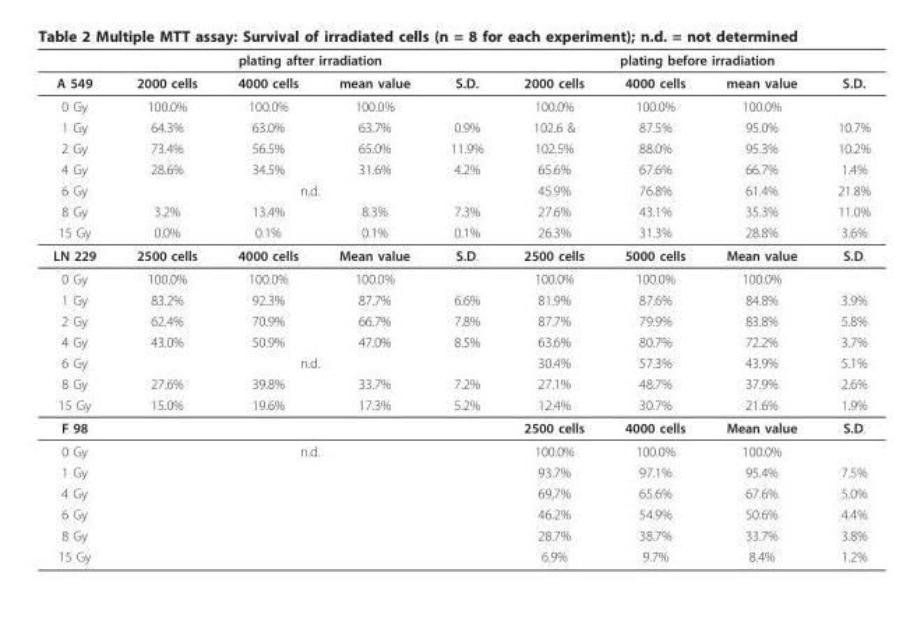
<table><thead><tr><td rowspan="2">A 549</td><td colspan="4">plating after irradiation</td><td colspan="4">plating before irradiation</td></tr><tr><td>2000 cells</td><td>4000 cells</td><td>mean value</td><td>S.D.</td><td>2000 cells</td><td>4000 cells</td><td>mean value</td><td>S.D.</td></tr></thead><tbody><tr><td>0 Gy</td><td>100.0%</td><td>100.0%</td><td>100.0%</td><td></td><td>100.0%</td><td>100.0%</td><td>100.0%</td><td></td></tr><tr><td>1 Gy</td><td>64.3%</td><td>63.0%</td><td>63.7%</td><td>0.9%</td><td>102.6 &amp;</td><td>87.5%</td><td>95.0%</td><td>10.7%</td></tr><tr><td>2 Gy</td><td>73.4%</td><td>56.5%</td><td>65.0%</td><td>11.9%</td><td>102.5%</td><td>88.0%</td><td>95.3%</td><td>10.2%</td></tr><tr><td>4 Gy</td><td>28.6%</td><td>34.5%</td><td>31.6%</td><td>4.2%</td><td>65.6%</td><td>67.6%</td><td>66.7%</td><td>1.4%</td></tr><tr><td>6 Gy</td><td colspan="4">n.d.</td><td>45.9%</td><td>76.8%</td><td>61.4%</td><td>21.8%</td></tr><tr><td>8 Gy</td><td>3.2%</td><td>13.4%</td><td>8.3%</td><td>7.3%</td><td>27.6%</td><td>43.1%</td><td>35.3%</td><td>11.0%</td></tr><tr><td>15 Gy</td><td>0.0%</td><td>0.1%</td><td>0.1%</td><td>0.1%</td><td>26.3%</td><td>31.3%</td><td>28.8%</td><td>3.6%</td></tr><tr><td>LN 229</td><td>2500 cells</td><td>4000 cells</td><td>Mean value</td><td>S.D.</td><td>2500 cells</td><td>5000 cells</td><td>Mean value</td><td>S.D.</td></tr><tr><td>0 Gy</td><td>100.0%</td><td>100.0%</td><td>100.0%</td><td></td><td>100.0%</td><td>100.0%</td><td>100.0%</td><td></td></tr><tr><td>1 Gy</td><td>83.2%</td><td>92.3%</td><td>87.7%</td><td>6.6%</td><td>81.9%</td><td>87.6%</td><td>84.8%</td><td>3.9%</td></tr><tr><td>2 Gy</td><td>62.4%</td><td>70.9%</td><td>66.7%</td><td>7.8%</td><td>87.7%</td><td>79.9%</td><td>83.8%</td><td>5.8%</td></tr><tr><td>4 Gy</td><td>43.0%</td><td>50.9%</td><td>47.0%</td><td>8.5%</td><td>63.6%</td><td>80.7%</td><td>72.2%</td><td>3.7%</td></tr><tr><td>6 Gy</td><td colspan="4">n.d.</td><td>30.4%</td><td>57.3%</td><td>43.9%</td><td>5.1%</td></tr><tr><td>8 Gy</td><td>27.6%</td><td>39.8%</td><td>33.7%</td><td>7.2%</td><td>27.1%</td><td>48.7%</td><td>37.9%</td><td>2.6%</td></tr><tr><td>15 Gy</td><td>15.0%</td><td>19.6%</td><td>17.3%</td><td>5.2%</td><td>12.4%</td><td>30.7%</td><td>21.6%</td><td>1.9%</td></tr><tr><td>F 98</td><td></td><td></td><td></td><td></td><td>2500 cells</td><td>4000 cells</td><td>Mean value</td><td>S.D.</td></tr><tr><td>0 Gy</td><td colspan="4">n.d.</td><td>100.0%</td><td>100.0%</td><td>100.0%</td><td></td></tr><tr><td>1 Gy</td><td></td><td></td><td></td><td></td><td>93.7%</td><td>97.1%</td><td>95.4%</td><td>7.5%</td></tr><tr><td>4 Gy</td><td></td><td></td><td></td><td></td><td>69,7%</td><td>65.6%</td><td>67.6%</td><td>5.0%</td></tr><tr><td>6 Gy</td><td></td><td></td><td></td><td></td><td>46.2%</td><td>54.9%</td><td>50.6%</td><td>4.4%</td></tr><tr><td>8 Gy</td><td></td><td></td><td></td><td></td><td>28.7%</td><td>38.7%</td><td>33.7%</td><td>3.8%</td></tr><tr><td>15 Gy</td><td></td><td></td><td></td><td></td><td>6.9%</td><td>9.7%</td><td>8.4%</td><td>1.2%</td></tr></tbody></table>